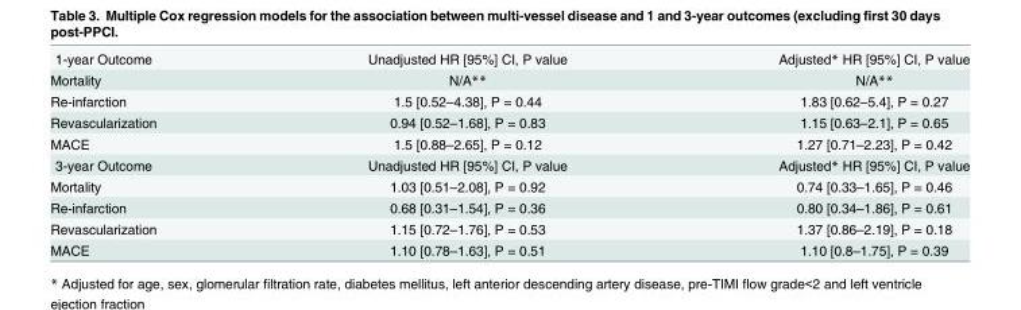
<table><tbody><tr><td>1-year Outcome</td><td>Unadjusted HR [95%] CI, P value</td><td>Adjusted* HR [95%] CI, P value</td></tr><tr><td>Mortality</td><td>N/A**</td><td>N/A**</td></tr><tr><td>Re-infarction</td><td>1.5 [0.52–4.38], P = 0.44</td><td>1.83 [0.62–5.4], P = 0.27</td></tr><tr><td>Revascularization</td><td>0.94 [0.52–1.68], P = 0.83</td><td>1.15 [0.63–2.1], P = 0.65</td></tr><tr><td>MACE</td><td>1.5 [0.88–2.65], P = 0.12</td><td>1.27 [0.71–2.23], P = 0.42</td></tr><tr><td>3-year Outcome</td><td>Unadjusted HR [95%] CI, P value</td><td>Adjusted* HR [95%] CI, P value</td></tr><tr><td>Mortality</td><td>1.03 [0.51–2.08], P = 0.92</td><td>0.74 [0.33–1.65], P = 0.46</td></tr><tr><td>Re-infarction</td><td>0.68 [0.31–1.54], P = 0.36</td><td>0.80 [0.34–1.86], P = 0.61</td></tr><tr><td>Revascularization</td><td>1.15 [0.72–1.76], P = 0.53</td><td>1.37 [0.86–2.19], P = 0.18</td></tr><tr><td>MACE</td><td>1.10 [0.78–1.63], P = 0.51</td><td>1.10 [0.8–1.75], P = 0.39</td></tr></tbody></table>